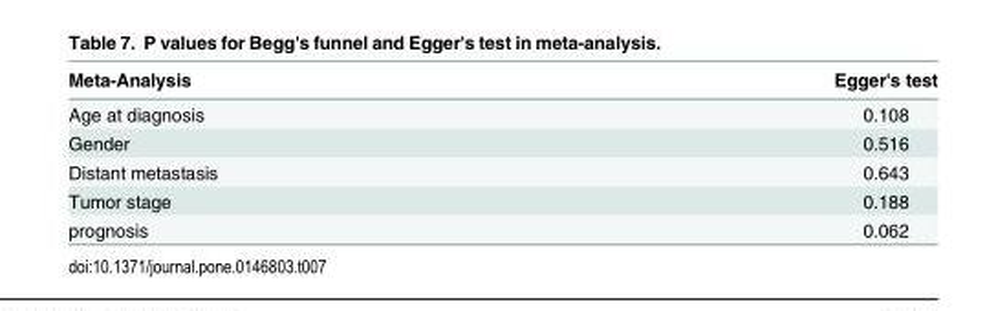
<table><thead><tr><td>Meta-Analysis</td><td>Egger&#x27;s test</td></tr></thead><tbody><tr><td>Age at diagnosis</td><td>0.108</td></tr><tr><td>Gender</td><td>0.516</td></tr><tr><td>Distant metastasis</td><td>0.643</td></tr><tr><td>Tumor stage</td><td>0.188</td></tr><tr><td>prognosis</td><td>0.062</td></tr></tbody></table>